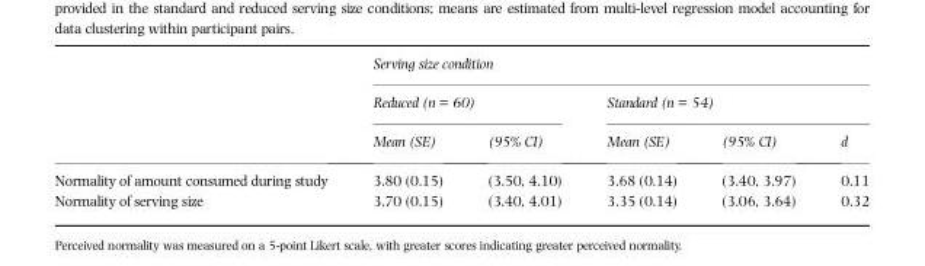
<table><thead><tr><td rowspan="3"></td><td colspan="5">Serving size condition</td></tr><tr><td colspan="2">Reduced (n = 60)</td><td colspan="2">Standard (n = 54)</td><td rowspan="2">d</td></tr><tr><td>Mean (SE)</td><td>(95% CI)</td><td>Mean (SE)</td><td>(95% CI)</td></tr></thead><tbody><tr><td>Normality of amount consumed during study</td><td>3.80 (0.15)</td><td>(3.50, 4.10)</td><td>3.68 (0.14)</td><td>(3.40, 3.97)</td><td>0.11</td></tr><tr><td>Normality of serving size</td><td>3.70 (0.15)</td><td>(3.40, 4.01)</td><td>3.35 (0.14)</td><td>(3.06, 3.64)</td><td>0.32</td></tr></tbody></table>